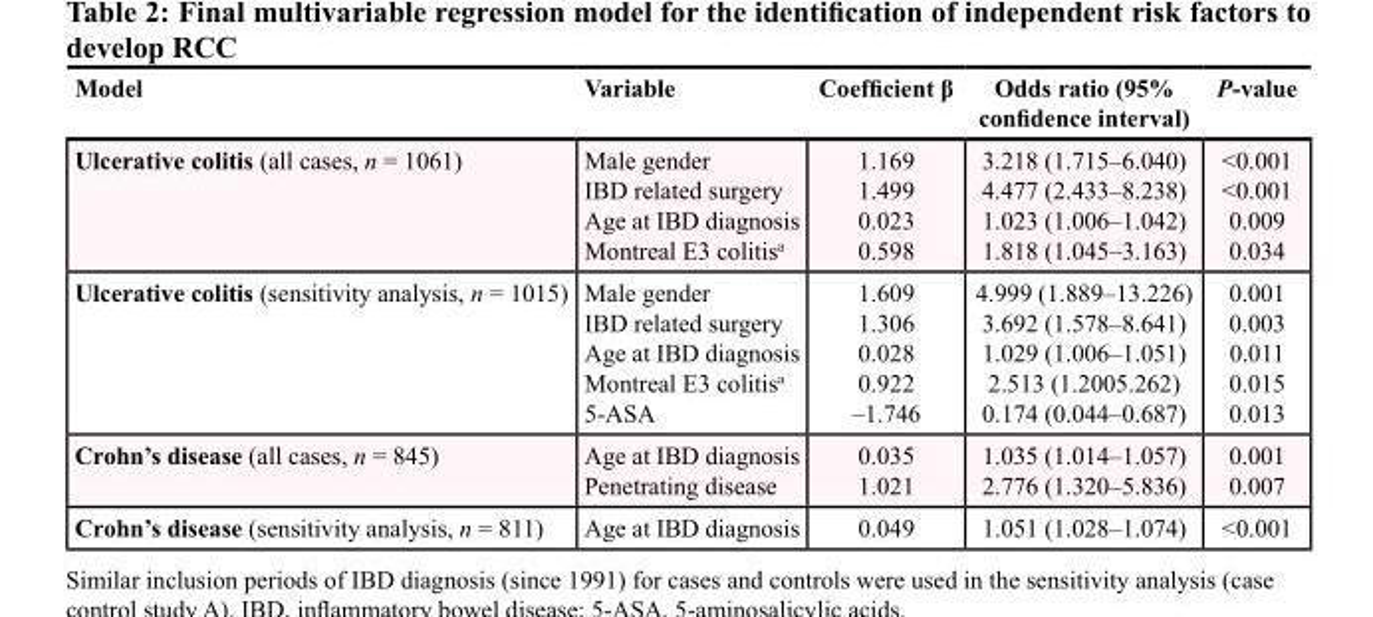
<table><thead><tr><td>Model</td><td>Variable</td><td>Coefficient β</td><td>Odds ratio (95% confidence interval)</td><td>P-value</td></tr></thead><tbody><tr><td>Ulcerative colitis (all cases, n = 1061)</td><td>Male gender IBD related surgery Age at IBD diagnosis Montreal E3 colitis<sup>a</sup></td><td>1.169 1.499 0.023 0.598</td><td>3.218 (1.715–6.040) 4.477 (2.433–8.238) 1.023 (1.006–1.042) 1.818 (1.045–3.163)</td><td>&lt;0.001 &lt;0.001 0.009 0.034</td></tr><tr><td>Ulcerative colitis (sensitivity analysis, n = 1015)</td><td>Male gender IBD related surgery Age at IBD diagnosis Montreal E3 colitis<sup>a</sup> 5-ASA</td><td>1.609 1.306 0.028 0.922 –1.746</td><td>4.999 (1.889–13.226) 3.692 (1.578–8.641) 1.029 (1.006–1.051) 2.513 (1.2005.262) 0.174 (0.044–0.687)</td><td>0.001 0.003 0.011 0.015 0.013</td></tr><tr><td>Crohn’s disease (all cases, n = 845)</td><td>Age at IBD diagnosis Penetrating disease</td><td>0.035 1.021</td><td>1.035 (1.014–1.057) 2.776 (1.320–5.836)</td><td>0.001 0.007</td></tr><tr><td>Crohn’s disease (sensitivity analysis, n = 811)</td><td>Age at IBD diagnosis</td><td>0.049</td><td>1.051 (1.028–1.074)</td><td>&lt;0.001</td></tr></tbody></table>